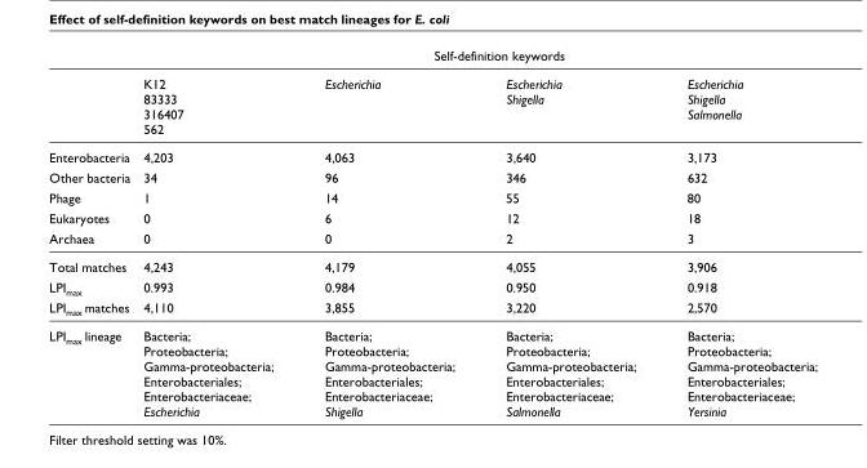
<table><thead><tr><td rowspan="2"></td><td colspan="4">Self-definition keywords</td></tr><tr><td>K12 83333 316407 562</td><td>Escherichia</td><td>Escherichia Shigella</td><td>Escherichia Shigella Salmonella</td></tr></thead><tbody><tr><td>Enterobacteria</td><td>4,203</td><td>4,063</td><td>3,640</td><td>3,173</td></tr><tr><td>Other bacteria</td><td>34</td><td>96</td><td>346</td><td>632</td></tr><tr><td>Phage</td><td>1</td><td>14</td><td>55</td><td>80</td></tr><tr><td>Eukaryotes</td><td>0</td><td>6</td><td>12</td><td>18</td></tr><tr><td>Archaea</td><td>0</td><td>0</td><td>2</td><td>3</td></tr><tr><td>Total matches</td><td>4,243</td><td>4,179</td><td>4,055</td><td>3,906</td></tr><tr><td>LPImax</td><td>0.993</td><td>0.984</td><td>0.950</td><td>0.918</td></tr><tr><td>LPImax matches</td><td>4,110</td><td>3,855</td><td>3,220</td><td>2,570</td></tr><tr><td>LPImax lineage</td><td>Bacteria; Proteobacteria; Gamma-proteobacteria; Enterobacteriales; Enterobacteriaceae; Escherichia</td><td>Bacteria; Proteobacteria; Gamma-proteobacteria; Enterobacteriales; Enterobacteriaceae; Shigella</td><td>Bacteria; Proteobacteria; Gamma-proteobacteria; Enterobacteriales; Enterobacteriaceae; Salmonella</td><td>Bacteria; Proteobacteria; Gamma-proteobacteria; Enterobacteriales; Enterobacteriaceae; Yersinia</td></tr></tbody></table>